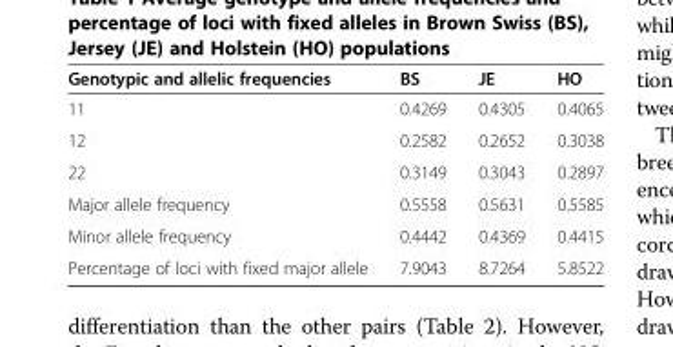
<table><thead><tr><td>Genotypic and allelic frequencies</td><td>BS</td><td>JE</td><td>HO</td></tr></thead><tbody><tr><td>11</td><td>0.4269</td><td>0.4305</td><td>0.4065</td></tr><tr><td>12</td><td>0.2582</td><td>0.2652</td><td>0.3038</td></tr><tr><td>22</td><td>0.3149</td><td>0.3043</td><td>0.2897</td></tr><tr><td>Major allele frequency</td><td>0.5558</td><td>0.5631</td><td>0.5585</td></tr><tr><td>Minor allele frequency</td><td>0.4442</td><td>0.4369</td><td>0.4415</td></tr><tr><td>Percentage of loci with fixed major allele</td><td>7.9043</td><td>8.7264</td><td>5.8522</td></tr></tbody></table>